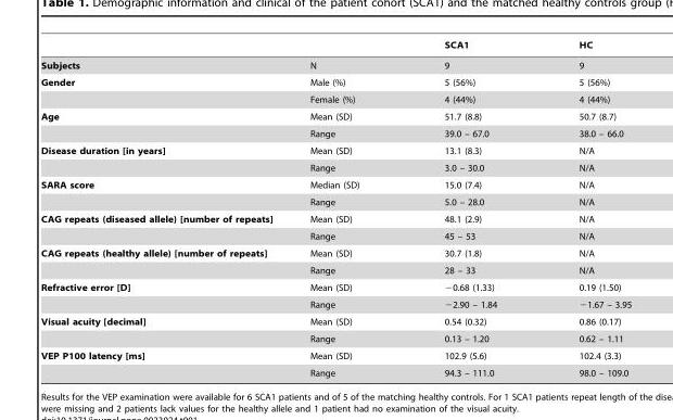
<table><thead><tr><td></td><td></td><td>SCA1</td><td>HC</td></tr></thead><tbody><tr><td>Subjects</td><td>N</td><td>9</td><td>9</td></tr><tr><td rowspan="2">Gender</td><td>Male (%)</td><td>5 (56%)</td><td>5 (56%)</td></tr><tr><td>Female (%)</td><td>4 (44%)</td><td>4 (44%)</td></tr><tr><td rowspan="2">Age</td><td>Mean (SD)</td><td>51.7 (8.8)</td><td>50.7 (8.7)</td></tr><tr><td>Range</td><td>39.0 – 67.0</td><td>38.0 – 66.0</td></tr><tr><td rowspan="2">Disease duration [in years]</td><td>Mean (SD)</td><td>13.1 (8.3)</td><td>N/A</td></tr><tr><td>Range</td><td>3.0 – 30.0</td><td>N/A</td></tr><tr><td rowspan="2">SARA score</td><td>Median (SD)</td><td>15.0 (7.4)</td><td>N/A</td></tr><tr><td>Range</td><td>5.0 – 28.0</td><td>N/A</td></tr><tr><td rowspan="2">CAG repeats (diseased allele) [number of repeats]</td><td>Mean (SD)</td><td>48.1 (2.9)</td><td>N/A</td></tr><tr><td>Range</td><td>45 – 53</td><td>N/A</td></tr><tr><td rowspan="2">CAG repeats (healthy allele) [number of repeats]</td><td>Mean (SD)</td><td>30.7 (1.8)</td><td>N/A</td></tr><tr><td>Range</td><td>28 – 33</td><td>N/A</td></tr><tr><td rowspan="2">Refractive error [D]</td><td>Mean (SD)</td><td>−0.68 (1.33)</td><td>0.19 (1.50)</td></tr><tr><td>Range</td><td>−2.90 – 1.84</td><td>−1.67 – 3.95</td></tr><tr><td rowspan="2">Visual acuity [decimal]</td><td>Mean (SD)</td><td>0.54 (0.32)</td><td>0.86 (0.17)</td></tr><tr><td>Range</td><td>0.13 – 1.20</td><td>0.62 – 1.11</td></tr><tr><td rowspan="2">VEP P100 latency [ms]</td><td>Mean (SD)</td><td>102.9 (5.6)</td><td>102.4 (3.3)</td></tr><tr><td>Range</td><td>94.3 – 111.0</td><td>98.0 – 109.0</td></tr></tbody></table>